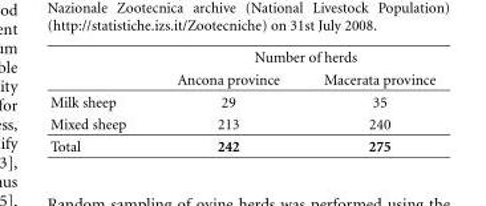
<table><thead><tr><td rowspan="2"></td><td colspan="2">Number of herds</td></tr><tr><td>Ancona province</td><td>Macerata province</td></tr></thead><tbody><tr><td>Milk sheep</td><td>29</td><td>35</td></tr><tr><td>Mixed sheep</td><td>213</td><td>240</td></tr><tr><td>Total</td><td>242</td><td>275</td></tr></tbody></table>